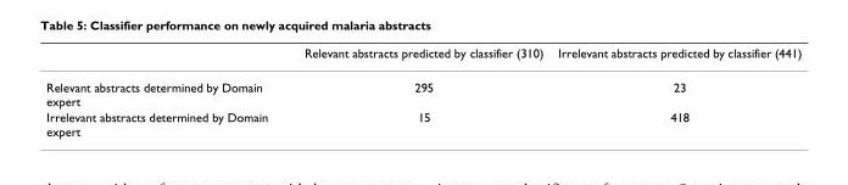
<table><thead><tr><td></td><td>Relevant abstracts predicted by classifier (310)</td><td>Irrelevant abstracts predicted by classifier (441)</td></tr></thead><tbody><tr><td>Relevant abstracts determined by Domain expert</td><td>295</td><td>23</td></tr><tr><td>Irrelevant abstracts determined by Domain expert</td><td>15</td><td>418</td></tr></tbody></table>